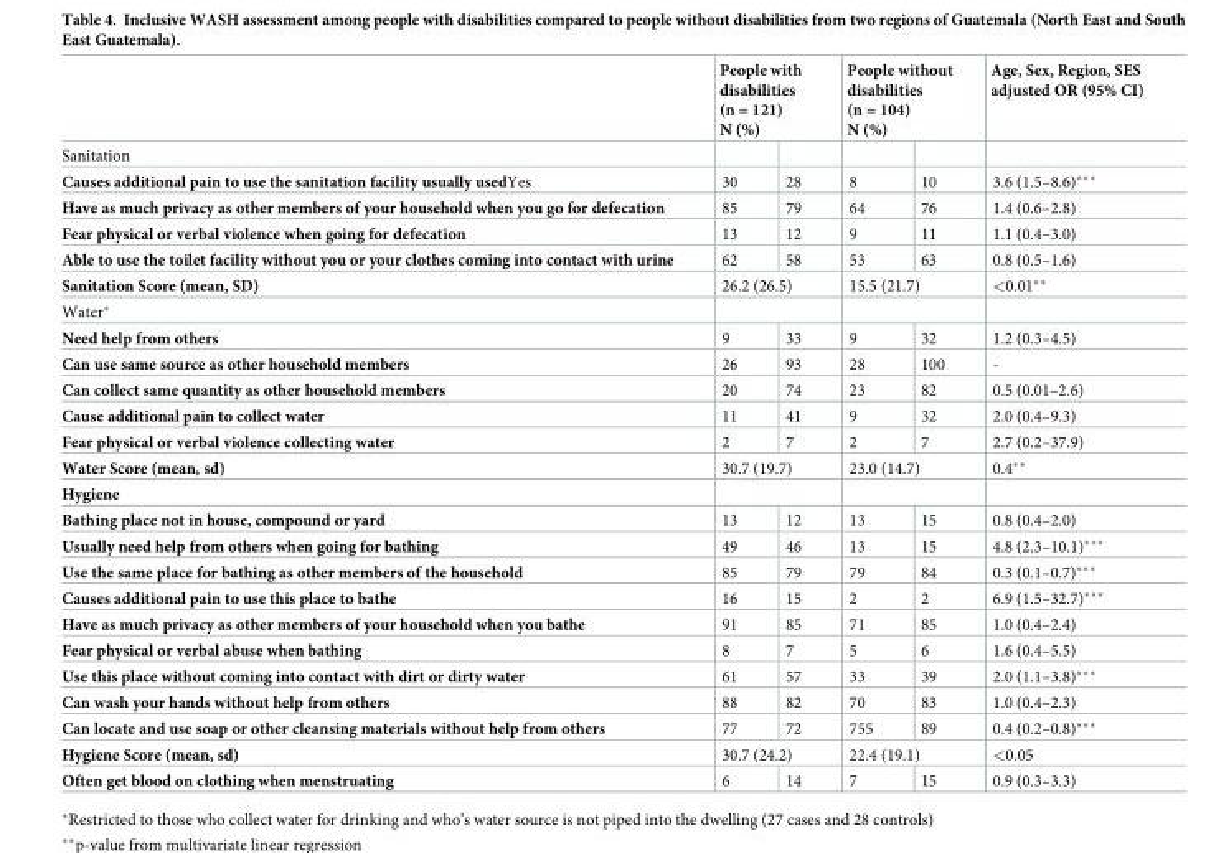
<table><thead><tr><td rowspan="2">Sanitation</td><td colspan="2">People with disabilities (n = 121) N (%)</td><td colspan="2">People without disabilities (n = 104) N (%)</td><td rowspan="2">Age, Sex, Region, SES adjusted OR (95% CI)</td></tr><tr><td></td><td></td><td></td><td></td></tr></thead><tbody><tr><td>Causes additional pain to use the sanitation facility usually usedYes</td><td>30</td><td>28</td><td>8</td><td>10</td><td>3.6 (1.5–8.6)***</td></tr><tr><td>Have as much privacy as other members of your household when you go for defecation</td><td>85</td><td>79</td><td>64</td><td>76</td><td>1.4 (0.6–2.8)</td></tr><tr><td>Fear physical or verbal violence when going for defecation</td><td>13</td><td>12</td><td>9</td><td>11</td><td>1.1 (0.4–3.0)</td></tr><tr><td>Able to use the toilet facility without you or your clothes coming into contact with urine</td><td>62</td><td>58</td><td>53</td><td>63</td><td>0.8 (0.5–1.6)</td></tr><tr><td>Sanitation Score (mean, SD)</td><td colspan="2">26.2 (26.5)</td><td colspan="2">15.5 (21.7)</td><td>&lt;0.01**</td></tr><tr><td colspan="6">Water*</td></tr><tr><td>Need help from others</td><td>9</td><td>33</td><td>9</td><td>32</td><td>1.2 (0.3–4.5)</td></tr><tr><td>Can use same source as other household members</td><td>26</td><td>93</td><td>28</td><td>100</td><td>-</td></tr><tr><td>Can collect same quantity as other household members</td><td>20</td><td>74</td><td>23</td><td>82</td><td>0.5 (0.01–2.6)</td></tr><tr><td>Cause additional pain to collect water</td><td>11</td><td>41</td><td>9</td><td>32</td><td>2.0 (0.4–9.3)</td></tr><tr><td>Fear physical or verbal violence collecting water</td><td>2</td><td>7</td><td>2</td><td>7</td><td>2.7 (0.2–37.9)</td></tr><tr><td>Water Score (mean, sd)</td><td colspan="2">30.7 (19.7)</td><td colspan="2">23.0 (14.7)</td><td>0.4**</td></tr><tr><td colspan="6">Hygiene</td></tr><tr><td>Bathing place not in house, compound or yard</td><td>13</td><td>12</td><td>13</td><td>15</td><td>0.8 (0.4–2.0)</td></tr><tr><td>Usually need help from others when going for bathing</td><td>49</td><td>46</td><td>13</td><td>15</td><td>4.8 (2.3–10.1)***</td></tr><tr><td>Use the same place for bathing as other members of the household</td><td>85</td><td>79</td><td>79</td><td>84</td><td>0.3 (0.1–0.7)***</td></tr><tr><td>Causes additional pain to use this place to bathe</td><td>16</td><td>15</td><td>2</td><td>2</td><td>6.9 (1.5–32.7)***</td></tr><tr><td>Have as much privacy as other members of your household when you bathe</td><td>91</td><td>85</td><td>71</td><td>85</td><td>1.0 (0.4–2.4)</td></tr><tr><td>Fear physical or verbal abuse when bathing</td><td>8</td><td>7</td><td>5</td><td>6</td><td>1.6 (0.4–5.5)</td></tr><tr><td>Use this place without coming into contact with dirt or dirty water</td><td>61</td><td>57</td><td>33</td><td>39</td><td>2.0 (1.1–3.8)***</td></tr><tr><td>Can wash your hands without help from others</td><td>88</td><td>82</td><td>70</td><td>83</td><td>1.0 (0.4–2.3)</td></tr><tr><td>Can locate and use soap or other cleansing materials without help from others</td><td>77</td><td>72</td><td>755</td><td>89</td><td>0.4 (0.2–0.8)***</td></tr><tr><td>Hygiene Score (mean, sd)</td><td colspan="2">30.7 (24.2)</td><td colspan="2">22.4 (19.1)</td><td>&lt;0.05</td></tr><tr><td>Often get blood on clothing when menstruating</td><td>6</td><td>14</td><td>7</td><td>15</td><td>0.9 (0.3–3.3)</td></tr></tbody></table>